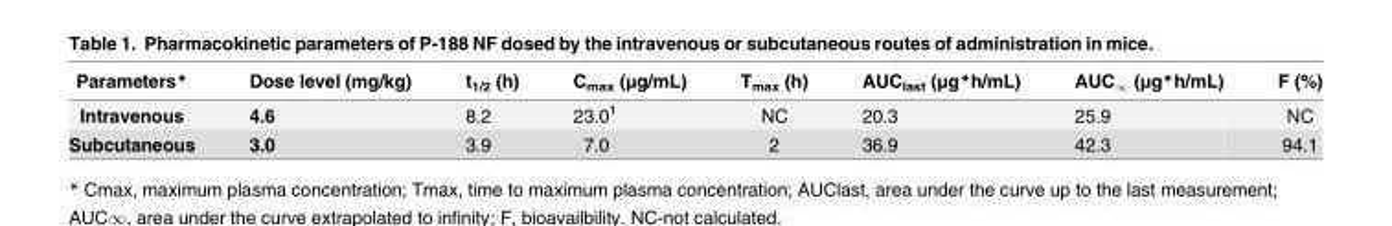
<table><thead><tr><td>Parameters*</td><td>Dose level (mg/kg)</td><td>t<sub>1/2</sub> (h)</td><td>C<sub>max</sub> (μg/mL)</td><td>T<sub>max</sub> (h)</td><td>AUC<sub>last</sub> (μg*h/mL)</td><td>AUC<sub>∞</sub> (μg*h/mL)</td><td>F (%)</td></tr></thead><tbody><tr><td>Intravenous</td><td>4.6</td><td>8.2</td><td>23.0<sup>1</sup></td><td>NC</td><td>20.3</td><td>25.9</td><td>NC</td></tr><tr><td>Subcutaneous</td><td>3.0</td><td>3.9</td><td>7.0</td><td>2</td><td>36.9</td><td>42.3</td><td>94.1</td></tr></tbody></table>